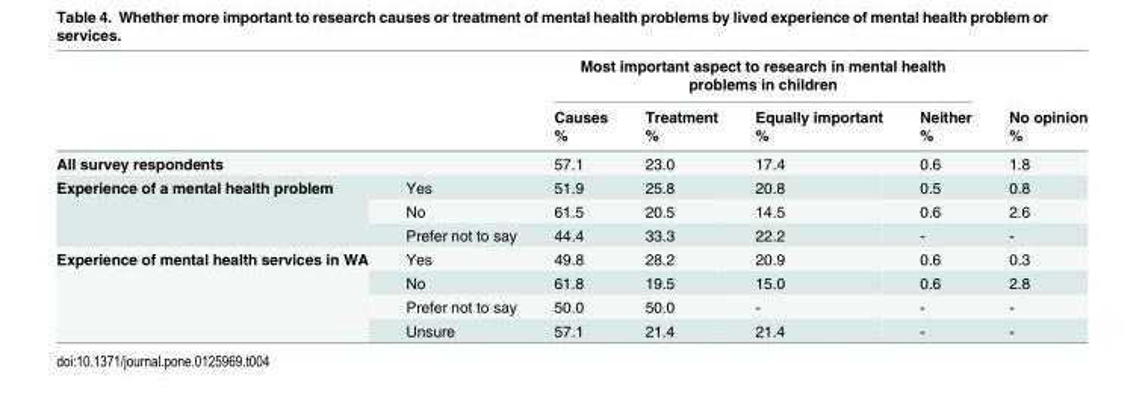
<table><thead><tr><td rowspan="3"></td><td rowspan="3"></td><td colspan="4">Most important aspect to research in mental health problems in children</td><td rowspan="3">No opinion %</td></tr><tr><td rowspan="2">Causes %</td><td rowspan="2">Treatment %</td><td rowspan="2">Equally important %</td><td rowspan="2">Neither %</td></tr><tr></tr></thead><tbody><tr><td>All survey respondents</td><td></td><td>57.1</td><td>23.0</td><td>17.4</td><td>0.6</td><td>1.8</td></tr><tr><td rowspan="3">Experience of a mental health problem</td><td>Yes</td><td>51.9</td><td>25.8</td><td>20.8</td><td>0.5</td><td>0.8</td></tr><tr><td>No</td><td>61.5</td><td>20.5</td><td>14.5</td><td>0.6</td><td>2.6</td></tr><tr><td>Prefer not to say</td><td>44.4</td><td>33.3</td><td>22.2</td><td>-</td><td>-</td></tr><tr><td rowspan="4">Experience of mental health services in WA</td><td>Yes</td><td>49.8</td><td>28.2</td><td>20.9</td><td>0.6</td><td>0.3</td></tr><tr><td>No</td><td>61.8</td><td>19.5</td><td>15.0</td><td>0.6</td><td>2.8</td></tr><tr><td>Prefer not to say</td><td>50.0</td><td>50.0</td><td>-</td><td>-</td><td>-</td></tr><tr><td>Unsure</td><td>57.1</td><td>21.4</td><td>21.4</td><td>-</td><td>-</td></tr></tbody></table>